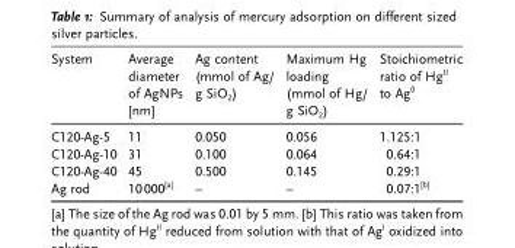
<table><thead><tr><td>System</td><td>Average diameter of AgNPs [nm]</td><td>Ag content (mmol of Ag/ g SiO<sub>2</sub>)</td><td>Maximum Hg loading (mmol of Hg/ g SiO<sub>2</sub>)</td><td>Stoichiometric ratio of Hg<sup>II</sup> to Ag<sup>0</sup></td></tr></thead><tbody><tr><td>C120-Ag-5</td><td>11</td><td>0.050</td><td>0.056</td><td>1.125:1</td></tr><tr><td>C120-Ag-10</td><td>31</td><td>0.100</td><td>0.064</td><td>0.64:1</td></tr><tr><td>C120-Ag-40</td><td>45</td><td>0.500</td><td>0.145</td><td>0.29:1</td></tr><tr><td>Ag rod</td><td>10000<sup>[a]</sup></td><td>–</td><td>–</td><td>0.07:1<sup>[b]</sup></td></tr></tbody></table>